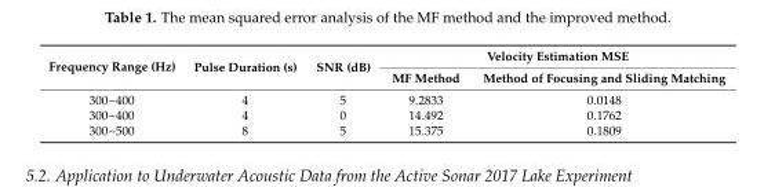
<table><thead><tr><td rowspan="2">Frequency Range (Hz)</td><td rowspan="2">Pulse Duration (s)</td><td rowspan="2">SNR (dB)</td><td colspan="2">Velocity Estimation MSE</td></tr><tr><td>MF Method</td><td>Method of Focusing and Sliding Matching</td></tr></thead><tbody><tr><td>300~400</td><td>4</td><td>5</td><td>9.2833</td><td>0.0148</td></tr><tr><td>300~400</td><td>4</td><td>0</td><td>14.492</td><td>0.1762</td></tr><tr><td>300~500</td><td>8</td><td>5</td><td>15.375</td><td>0.1809</td></tr></tbody></table>